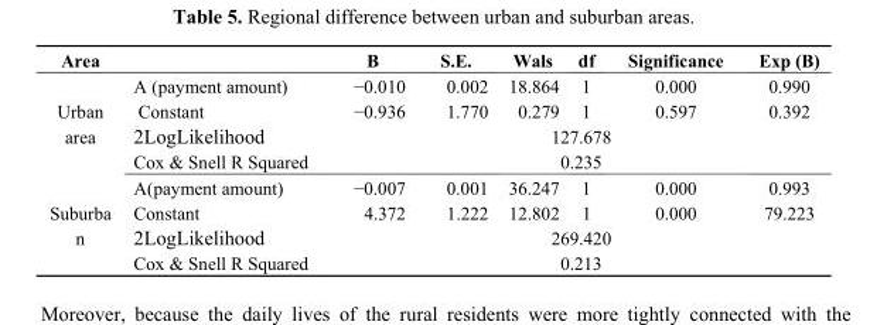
<table><thead><tr><td>Area</td><td></td><td>B</td><td>S.E.</td><td>Wals</td><td>df</td><td>Significance</td><td>Exp (B)</td></tr></thead><tbody><tr><td rowspan="4">Urban area</td><td>A (payment amount)</td><td>−0.010</td><td>0.002</td><td>18.864</td><td>1</td><td>0.000</td><td>0.990</td></tr><tr><td>Constant</td><td>−0.936</td><td>1.770</td><td>0.279</td><td>1</td><td>0.597</td><td>0.392</td></tr><tr><td>2LogLikelihood</td><td colspan="6">127.678</td></tr><tr><td>Cox &amp; Snell R Squared</td><td colspan="6">0.235</td></tr><tr><td rowspan="4">Suburba n</td><td>A(payment amount)</td><td>−0.007</td><td>0.001</td><td>36.247</td><td>1</td><td>0.000</td><td>0.993</td></tr><tr><td>Constant</td><td>4.372</td><td>1.222</td><td>12.802</td><td>1</td><td>0.000</td><td>79.223</td></tr><tr><td>2LogLikelihood</td><td colspan="6">269.420</td></tr><tr><td>Cox &amp; Snell R Squared</td><td colspan="6">0.213</td></tr></tbody></table>